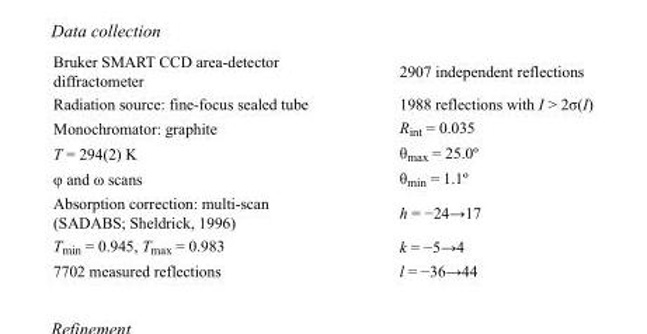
<table><tbody><tr><td>Bruker SMART CCD area-detector diffractometer</td><td>2907 independent reflections</td></tr><tr><td>Radiation source: fine-focus sealed tube</td><td>1988 reflections with I &gt; 2σ(I)</td></tr><tr><td>Monochromator: graphite</td><td>R<sub>int</sub> = 0.035</td></tr><tr><td>T = 294(2) K</td><td>θ<sub>max</sub> = 25.0º</td></tr><tr><td>φ and ω scans</td><td>θ<sub>min</sub> = 1.1º</td></tr><tr><td>Absorption correction: multi-scan (SADABS; Sheldrick, 1996)</td><td>h = −24→17</td></tr><tr><td>T<sub>min</sub> = 0.945, T<sub>max</sub> = 0.983</td><td>k = −5→4</td></tr><tr><td>7702 measured reflections</td><td>l = −36→44</td></tr></tbody></table>